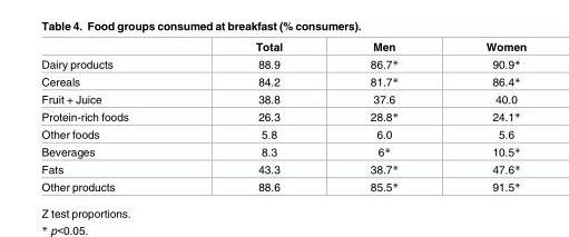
<table><thead><tr><td></td><td>Total</td><td>Men</td><td>Women</td></tr></thead><tbody><tr><td>Dairy products</td><td>88.9</td><td>86.7*</td><td>90.9*</td></tr><tr><td>Cereals</td><td>84.2</td><td>81.7*</td><td>86.4*</td></tr><tr><td>Fruit + Juice</td><td>38.8</td><td>37.6</td><td>40.0</td></tr><tr><td>Protein-rich foods</td><td>26.3</td><td>28.8*</td><td>24.1*</td></tr><tr><td>Other foods</td><td>5.8</td><td>6.0</td><td>5.6</td></tr><tr><td>Beverages</td><td>8.3</td><td>6*</td><td>10.5*</td></tr><tr><td>Fats</td><td>43.3</td><td>38.7*</td><td>47.6*</td></tr><tr><td>Other products</td><td>88.6</td><td>85.5*</td><td>91.5*</td></tr></tbody></table>